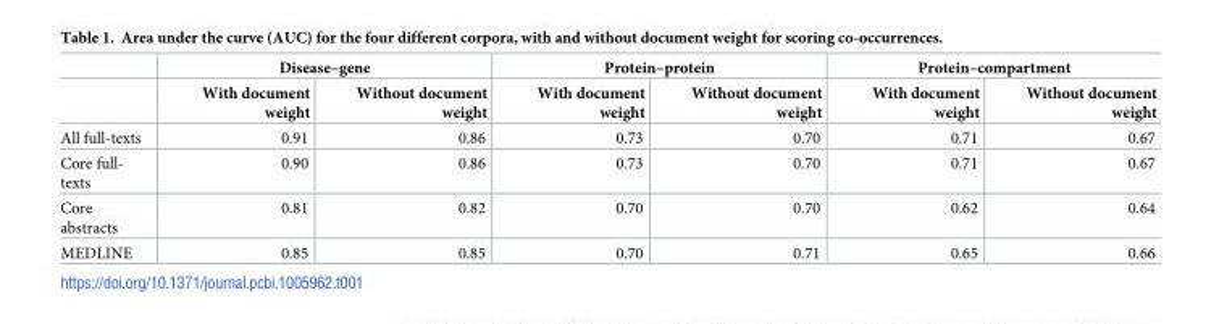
<table><thead><tr><td rowspan="2"></td><td colspan="2">Disease–gene</td><td colspan="2">Protein–protein</td><td colspan="2">Protein–compartment</td></tr><tr><td>With document weight</td><td>Without document weight</td><td>With document weight</td><td>Without document weight</td><td>With document weight</td><td>Without document weight</td></tr></thead><tbody><tr><td>All full-texts</td><td>0.91</td><td>0.86</td><td>0.73</td><td>0.70</td><td>0.71</td><td>0.67</td></tr><tr><td>Core full- texts</td><td>0.90</td><td>0.86</td><td>0.73</td><td>0.70</td><td>0.71</td><td>0.67</td></tr><tr><td>Core abstracts</td><td>0.81</td><td>0.82</td><td>0.70</td><td>0.70</td><td>0.62</td><td>0.64</td></tr><tr><td>MEDLINE</td><td>0.85</td><td>0.85</td><td>0.70</td><td>0.71</td><td>0.65</td><td>0.66</td></tr></tbody></table>